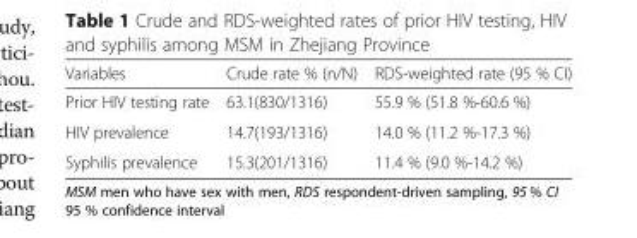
<table><thead><tr><td>Variables</td><td>Crude rate % (n/N)</td><td>RDS-weighted rate (95 % CI)</td></tr></thead><tbody><tr><td>Prior HIV testing rate</td><td>63.1(830/1316)</td><td>55.9 % (51.8 %-60.6 %)</td></tr><tr><td>HIV prevalence</td><td>14.7(193/1316)</td><td>14.0 % (11.2 %-17.3 %)</td></tr><tr><td>Syphilis prevalence</td><td>15.3(201/1316)</td><td>11.4 % (9.0 %-14.2 %)</td></tr></tbody></table>